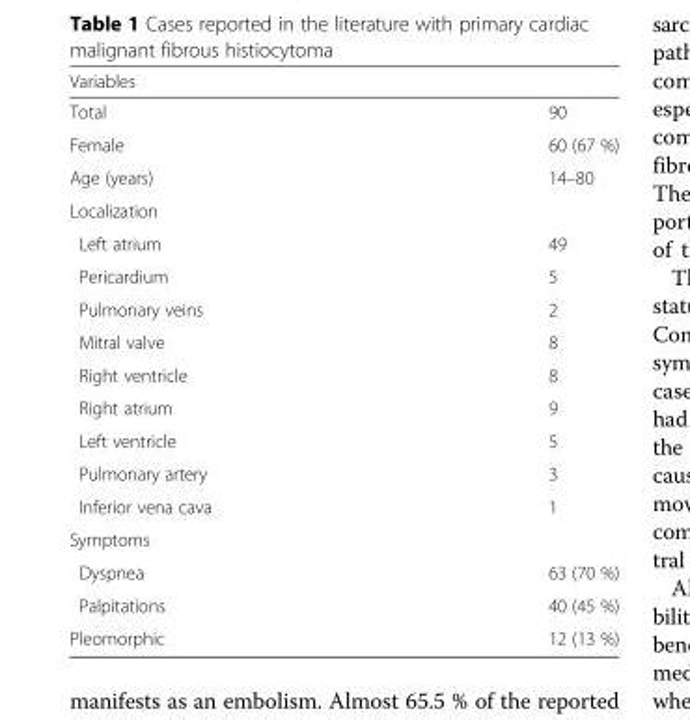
<table><thead><tr><td colspan="2">Variables</td></tr><tr><td>Total</td><td>90</td></tr></thead><tbody><tr><td>Female</td><td>60 (67 %)</td></tr><tr><td>Age (years)</td><td>14–80</td></tr><tr><td colspan="2">Localization</td></tr><tr><td>Left atrium</td><td>49</td></tr><tr><td>Pericardium</td><td>5</td></tr><tr><td>Pulmonary veins</td><td>2</td></tr><tr><td>Mitral valve</td><td>8</td></tr><tr><td>Right ventricle</td><td>8</td></tr><tr><td>Right atrium</td><td>9</td></tr><tr><td>Left ventricle</td><td>5</td></tr><tr><td>Pulmonary artery</td><td>3</td></tr><tr><td>Inferior vena cava</td><td>1</td></tr><tr><td colspan="2">Symptoms</td></tr><tr><td>Dyspnea</td><td>63 (70 %)</td></tr><tr><td>Palpitations</td><td>40 (45 %)</td></tr><tr><td>Pleomorphic</td><td>12 (13 %)</td></tr></tbody></table>